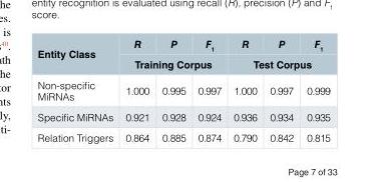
<table><thead><tr><td rowspan="2">Entity Class</td><td>R</td><td>P</td><td>F1</td><td>R</td><td>P</td><td>F1</td></tr><tr><td colspan="3">Training Corpus</td><td colspan="3">Test Corpus</td></tr></thead><tbody><tr><td>Non-specific MiRNAs</td><td>1.000</td><td>0.995</td><td>0.997</td><td>1.000</td><td>0.997</td><td>0.999</td></tr><tr><td>Specific MiRNAs</td><td>0.921</td><td>0.928</td><td>0.924</td><td>0.936</td><td>0.934</td><td>0.935</td></tr><tr><td>Relation Triggers</td><td>0.864</td><td>0.885</td><td>0.874</td><td>0.790</td><td>0.842</td><td>0.815</td></tr></tbody></table>